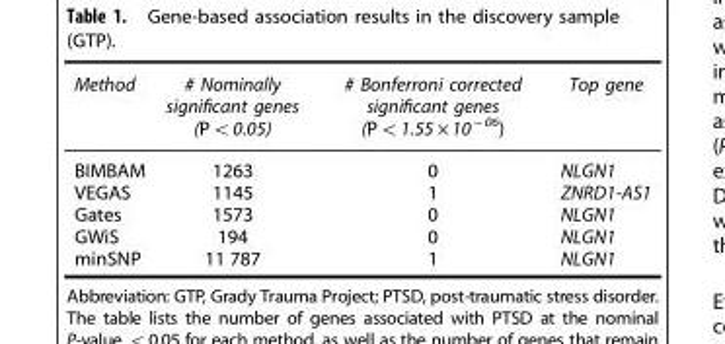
<table><thead><tr><td>Method</td><td># Nominally significant genes (P&lt;0.05)</td><td># Bonferroni corrected significant genes (P&lt;1.55 × 10 <sup>− 06</sup>)</td><td>Top gene</td></tr></thead><tbody><tr><td>BIMBAM</td><td>1263</td><td>0</td><td>NLGN1</td></tr><tr><td>VEGAS</td><td>1145</td><td>1</td><td>ZNRD1-AS1</td></tr><tr><td>Gates</td><td>1573</td><td>0</td><td>NLGN1</td></tr><tr><td>GWiS</td><td>194</td><td>0</td><td>NLGN1</td></tr><tr><td>minSNP</td><td>11 787</td><td>1</td><td>NLGN1</td></tr></tbody></table>